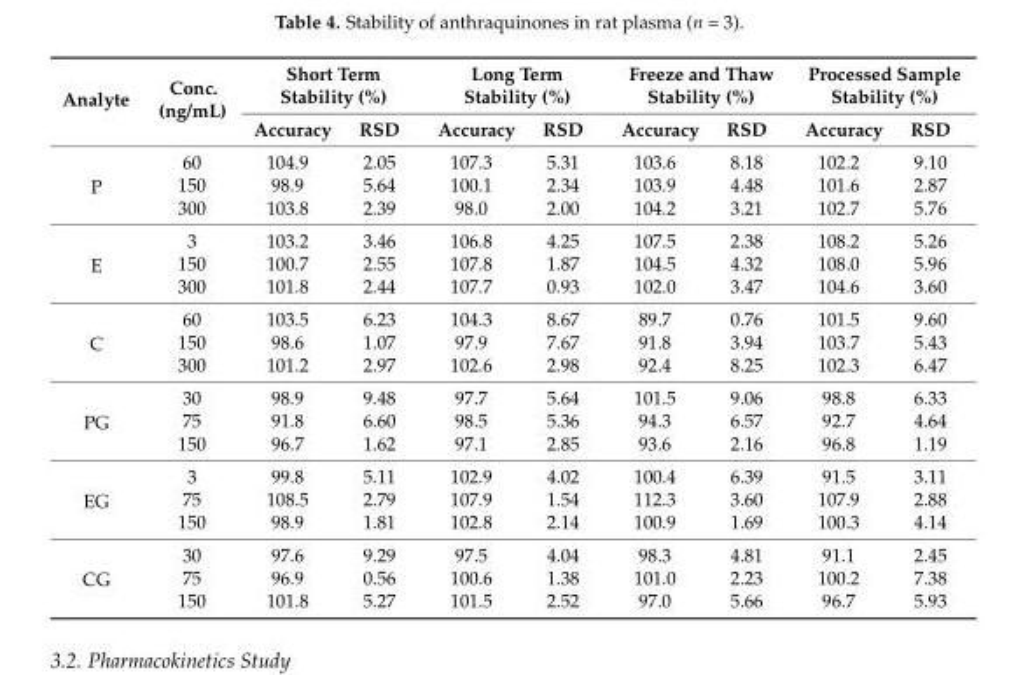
<table><thead><tr><td rowspan="2">Analyte</td><td rowspan="2">Conc. (ng/mL)</td><td colspan="2">Short Term Stability (%)</td><td colspan="2">Long Term Stability (%)</td><td colspan="2">Freeze and Thaw Stability (%)</td><td colspan="2">Processed Sample Stability (%)</td></tr><tr><td>Accuracy</td><td>RSD</td><td>Accuracy</td><td>RSD</td><td>Accuracy</td><td>RSD</td><td>Accuracy</td><td>RSD</td></tr></thead><tbody><tr><td rowspan="3">P</td><td>60</td><td>104.9</td><td>2.05</td><td>107.3</td><td>5.31</td><td>103.6</td><td>8.18</td><td>102.2</td><td>9.10</td></tr><tr><td>150</td><td>98.9</td><td>5.64</td><td>100.1</td><td>2.34</td><td>103.9</td><td>4.48</td><td>101.6</td><td>2.87</td></tr><tr><td>300</td><td>103.8</td><td>2.39</td><td>98.0</td><td>2.00</td><td>104.2</td><td>3.21</td><td>102.7</td><td>5.76</td></tr><tr><td rowspan="3">E</td><td>3</td><td>103.2</td><td>3.46</td><td>106.8</td><td>4.25</td><td>107.5</td><td>2.38</td><td>108.2</td><td>5.26</td></tr><tr><td>150</td><td>100.7</td><td>2.55</td><td>107.8</td><td>1.87</td><td>104.5</td><td>4.32</td><td>108.0</td><td>5.96</td></tr><tr><td>300</td><td>101.8</td><td>2.44</td><td>107.7</td><td>0.93</td><td>102.0</td><td>3.47</td><td>104.6</td><td>3.60</td></tr><tr><td rowspan="3">C</td><td>60</td><td>103.5</td><td>6.23</td><td>104.3</td><td>8.67</td><td>89.7</td><td>0.76</td><td>101.5</td><td>9.60</td></tr><tr><td>150</td><td>98.6</td><td>1.07</td><td>97.9</td><td>7.67</td><td>91.8</td><td>3.94</td><td>103.7</td><td>5.43</td></tr><tr><td>300</td><td>101.2</td><td>2.97</td><td>102.6</td><td>2.98</td><td>92.4</td><td>8.25</td><td>102.3</td><td>6.47</td></tr><tr><td rowspan="3">PG</td><td>30</td><td>98.9</td><td>9.48</td><td>97.7</td><td>5.64</td><td>101.5</td><td>9.06</td><td>98.8</td><td>6.33</td></tr><tr><td>75</td><td>91.8</td><td>6.60</td><td>98.5</td><td>5.36</td><td>94.3</td><td>6.57</td><td>92.7</td><td>4.64</td></tr><tr><td>150</td><td>96.7</td><td>1.62</td><td>97.1</td><td>2.85</td><td>93.6</td><td>2.16</td><td>96.8</td><td>1.19</td></tr><tr><td rowspan="3">EG</td><td>3</td><td>99.8</td><td>5.11</td><td>102.9</td><td>4.02</td><td>100.4</td><td>6.39</td><td>91.5</td><td>3.11</td></tr><tr><td>75</td><td>108.5</td><td>2.79</td><td>107.9</td><td>1.54</td><td>112.3</td><td>3.60</td><td>107.9</td><td>2.88</td></tr><tr><td>150</td><td>98.9</td><td>1.81</td><td>102.8</td><td>2.14</td><td>100.9</td><td>1.69</td><td>100.3</td><td>4.14</td></tr><tr><td rowspan="3">CG</td><td>30</td><td>97.6</td><td>9.29</td><td>97.5</td><td>4.04</td><td>98.3</td><td>4.81</td><td>91.1</td><td>2.45</td></tr><tr><td>75</td><td>96.9</td><td>0.56</td><td>100.6</td><td>1.38</td><td>101.0</td><td>2.23</td><td>100.2</td><td>7.38</td></tr><tr><td>150</td><td>101.8</td><td>5.27</td><td>101.5</td><td>2.52</td><td>97.0</td><td>5.66</td><td>96.7</td><td>5.93</td></tr></tbody></table>